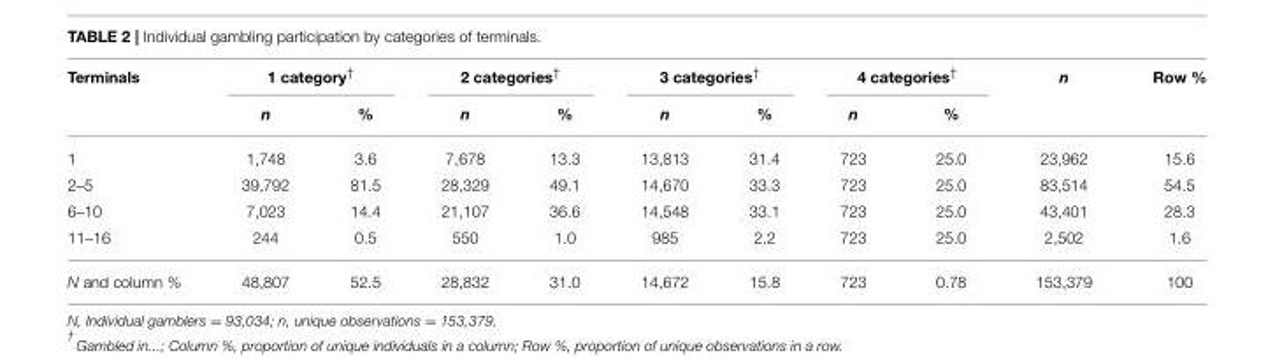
<table><thead><tr><td rowspan="2">Terminals</td><td colspan="2">1 category<sup>†</sup></td><td colspan="2">2 categories<sup>†</sup></td><td colspan="2">3 categories<sup>†</sup></td><td colspan="2">4 categories<sup>†</sup></td><td rowspan="2">n</td><td rowspan="2">Row %</td></tr><tr><td>n</td><td>%</td><td>n</td><td>%</td><td>n</td><td>%</td><td>n</td><td>%</td></tr></thead><tbody><tr><td>1</td><td>1,748</td><td>3.6</td><td>7,678</td><td>13.3</td><td>13,813</td><td>31.4</td><td>723</td><td>25.0</td><td>23,962</td><td>15.6</td></tr><tr><td>2–5</td><td>39,792</td><td>81.5</td><td>28,329</td><td>49.1</td><td>14,670</td><td>33.3</td><td>723</td><td>25.0</td><td>83,514</td><td>54.5</td></tr><tr><td>6–10</td><td>7,023</td><td>14.4</td><td>21,107</td><td>36.6</td><td>14,548</td><td>33.1</td><td>723</td><td>25.0</td><td>43,401</td><td>28.3</td></tr><tr><td>11–16</td><td>244</td><td>0.5</td><td>550</td><td>1.0</td><td>985</td><td>2.2</td><td>723</td><td>25.0</td><td>2,502</td><td>1.6</td></tr><tr><td>N and column %</td><td>48,807</td><td>52.5</td><td>28,832</td><td>31.0</td><td>14,672</td><td>15.8</td><td>723</td><td>0.78</td><td>153,379</td><td>100</td></tr></tbody></table>